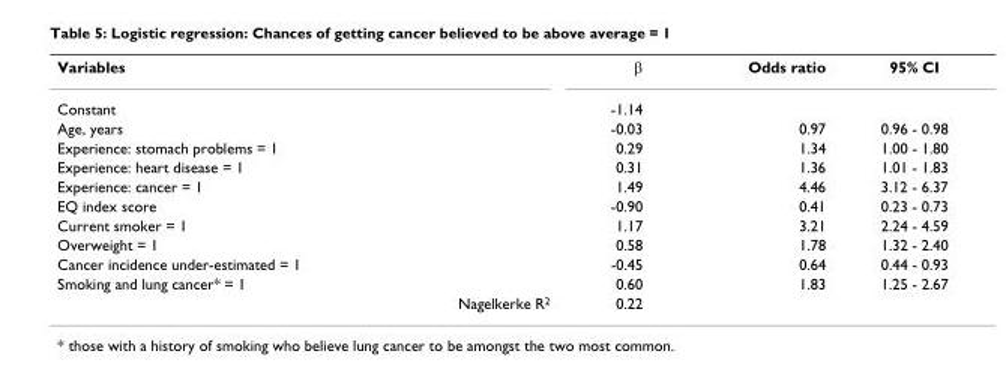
<table><tbody><tr><td>Variables</td><td>β</td><td>Odds ratio</td><td>95% CI</td></tr><tr><td>Constant</td><td>-1.14</td><td></td><td></td></tr><tr><td>Age, years</td><td>-0.03</td><td>0.97</td><td>0.96 - 0.98</td></tr><tr><td>Experience: stomach problems = 1</td><td>0.29</td><td>1.34</td><td>1.00 - 1.80</td></tr><tr><td>Experience: heart disease = 1</td><td>0.31</td><td>1.36</td><td>1.01 - 1.83</td></tr><tr><td>Experience: cancer = 1</td><td>1.49</td><td>4.46</td><td>3.12 - 6.37</td></tr><tr><td>EQ index score</td><td>-0.90</td><td>0.41</td><td>0.23 - 0.73</td></tr><tr><td>Current smoker = 1</td><td>1.17</td><td>3.21</td><td>2.24 - 4.59</td></tr><tr><td>Overweight = 1</td><td>0.58</td><td>1.78</td><td>1.32 - 2.40</td></tr><tr><td>Cancer incidence under-estimated = 1</td><td>-0.45</td><td>0.64</td><td>0.44 - 0.93</td></tr><tr><td>Smoking and lung cancer* = 1</td><td>0.60</td><td>1.83</td><td>1.25 - 2.67</td></tr><tr><td>Nagelkerke R<sup>2</sup></td><td>0.22</td><td></td><td></td></tr></tbody></table>